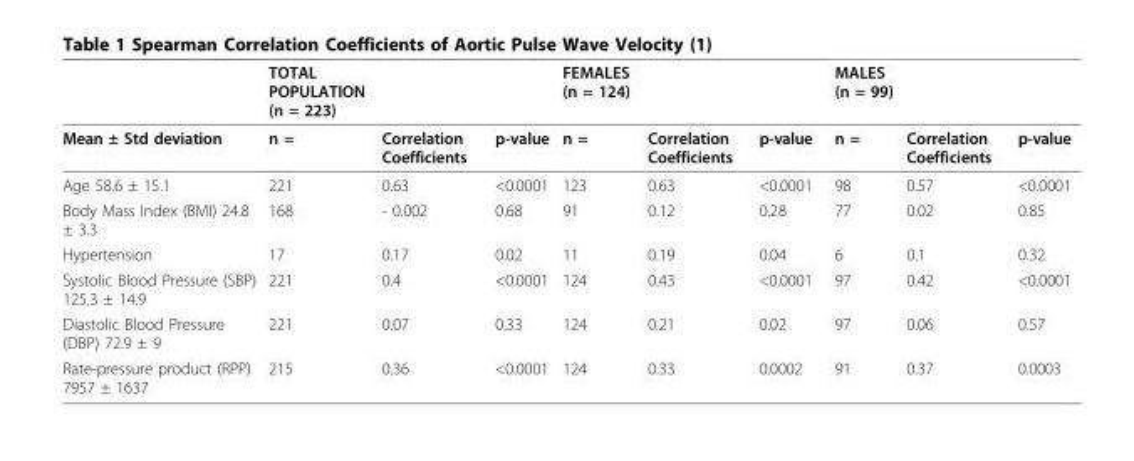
<table><thead><tr><td></td><td>TOTAL POPULATION (n = 223)</td><td></td><td></td><td>FEMALES (n = 124)</td><td></td><td></td><td>MALES (n = 99)</td><td></td><td></td></tr></thead><tbody><tr><td>Mean ± Std deviation</td><td>n =</td><td>Correlation Coefficients</td><td>p-value</td><td>n =</td><td>Correlation Coefficients</td><td>p-value</td><td>n =</td><td>Correlation Coefficients</td><td>p-value</td></tr><tr><td>Age 58.6 ± 15.1</td><td>221</td><td>0.63</td><td>&lt;0.0001</td><td>123</td><td>0.63</td><td>&lt;0.0001</td><td>98</td><td>0.57</td><td>&lt;0.0001</td></tr><tr><td>Body Mass Index (BMI) 24.8 ± 3.3</td><td>168</td><td>- 0.002</td><td>0.68</td><td>91</td><td>0.12</td><td>0.28</td><td>77</td><td>0.02</td><td>0.85</td></tr><tr><td>Hypertension</td><td>17</td><td>0.17</td><td>0.02</td><td>11</td><td>0.19</td><td>0.04</td><td>6</td><td>0.1</td><td>0.32</td></tr><tr><td>Systolic Blood Pressure (SBP) 125.3 ± 14.9</td><td>221</td><td>0.4</td><td>&lt;0.0001</td><td>124</td><td>0.43</td><td>&lt;0.0001</td><td>97</td><td>0.42</td><td>&lt;0.0001</td></tr><tr><td>Diastolic Blood Pressure (DBP) 72.9 ± 9</td><td>221</td><td>0.07</td><td>0.33</td><td>124</td><td>0.21</td><td>0.02</td><td>97</td><td>0.06</td><td>0.57</td></tr><tr><td>Rate-pressure product (RPP) 7957 ± 1637</td><td>215</td><td>0.36</td><td>&lt;0.0001</td><td>124</td><td>0.33</td><td>0.0002</td><td>91</td><td>0.37</td><td>0.0003</td></tr></tbody></table>